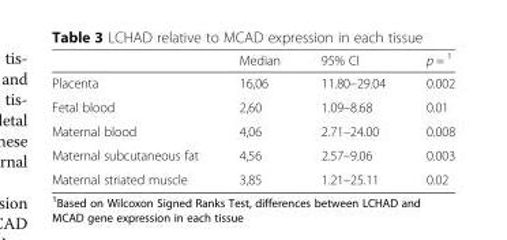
<table><thead><tr><td></td><td>Median</td><td>95% CI</td><td>p = <sup>1</sup></td></tr></thead><tbody><tr><td>Placenta</td><td>16,06</td><td>11.80–29.04</td><td>0.002</td></tr><tr><td>Fetal blood</td><td>2,60</td><td>1.09–8.68</td><td>0.01</td></tr><tr><td>Maternal blood</td><td>4,06</td><td>2.71–24.00</td><td>0.008</td></tr><tr><td>Maternal subcutaneous fat</td><td>4,56</td><td>2.57–9.06</td><td>0.003</td></tr><tr><td>Maternal striated muscle</td><td>3,85</td><td>1.21–25.11</td><td>0.02</td></tr></tbody></table>